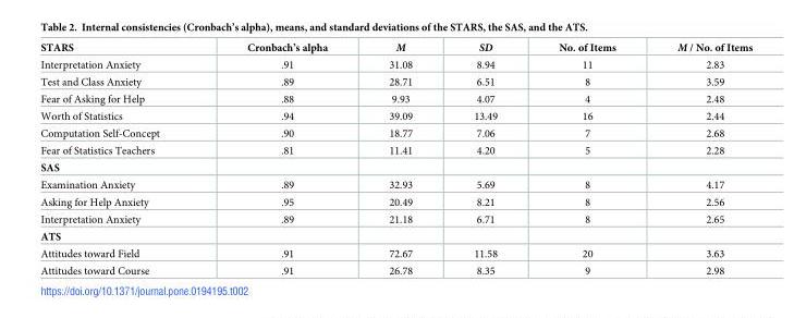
<table><thead><tr><td>STARS</td><td>Cronbach’s alpha</td><td>M</td><td>SD</td><td>No. of Items</td><td>M / No. of Items</td></tr></thead><tbody><tr><td>Interpretation Anxiety</td><td>.91</td><td>31.08</td><td>8.94</td><td>11</td><td>2.83</td></tr><tr><td>Test and Class Anxiety</td><td>.89</td><td>28.71</td><td>6.51</td><td>8</td><td>3.59</td></tr><tr><td>Fear of Asking for Help</td><td>.88</td><td>9.93</td><td>4.07</td><td>4</td><td>2.48</td></tr><tr><td>Worth of Statistics</td><td>.94</td><td>39.09</td><td>13.49</td><td>16</td><td>2.44</td></tr><tr><td>Computation Self-Concept</td><td>.90</td><td>18.77</td><td>7.06</td><td>7</td><td>2.68</td></tr><tr><td>Fear of Statistics Teachers</td><td>.81</td><td>11.41</td><td>4.20</td><td>5</td><td>2.28</td></tr><tr><td colspan="6">SAS</td></tr><tr><td>Examination Anxiety</td><td>.89</td><td>32.93</td><td>5.69</td><td>8</td><td>4.17</td></tr><tr><td>Asking for Help Anxiety</td><td>.95</td><td>20.49</td><td>8.21</td><td>8</td><td>2.56</td></tr><tr><td>Interpretation Anxiety</td><td>.89</td><td>21.18</td><td>6.71</td><td>8</td><td>2.65</td></tr><tr><td colspan="6">ATS</td></tr><tr><td>Attitudes toward Field</td><td>.91</td><td>72.67</td><td>11.58</td><td>20</td><td>3.63</td></tr><tr><td>Attitudes toward Course</td><td>.91</td><td>26.78</td><td>8.35</td><td>9</td><td>2.98</td></tr></tbody></table>